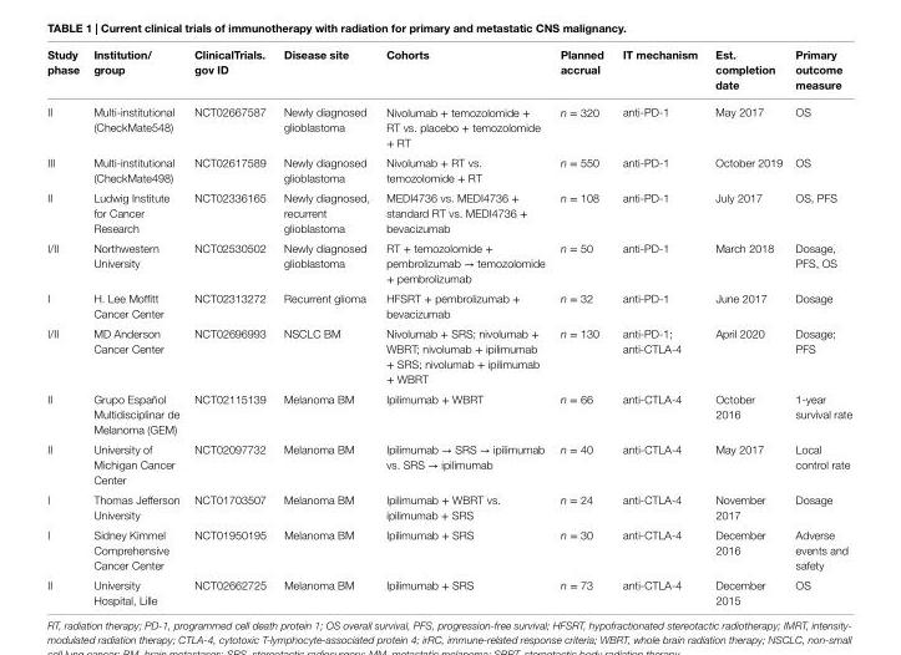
<table><thead><tr><td>Study phase</td><td>institution/ group</td><td>ClinicalTrials. gov iD</td><td>Disease site</td><td>Cohorts</td><td>Planned accrual</td><td>iT mechanism</td><td>est. completion date</td><td>Primary outcome measure</td></tr></thead><tbody><tr><td>II</td><td>Multi-institutional (CheckMate548)</td><td>NCT02667587</td><td>Newly diagnosed glioblastoma</td><td>Nivolumab + temozolomide + RT vs. placebo + temozolomide + RT</td><td>n = 320</td><td>anti-PD-1</td><td>May 2017</td><td>OS</td></tr><tr><td>III</td><td>Multi-institutional (CheckMate498)</td><td>NCT02617589</td><td>Newly diagnosed glioblastoma</td><td>Nivolumab + RT vs. temozolomide + RT</td><td>n = 550</td><td>anti-PD-1</td><td>October 2019</td><td>OS</td></tr><tr><td>II</td><td>Ludwig Institute for Cancer Research</td><td>NCT02336165</td><td>Newly diagnosed, recurrent glioblastoma</td><td>MEDI4736 vs. MEDI4736 + standard RT vs. MEDI4736 + bevacizumab</td><td>n = 108</td><td>anti-PD-1</td><td>July 2017</td><td>OS, PFS</td></tr><tr><td>I/II</td><td>Northwestern University</td><td>NCT02530502</td><td>Newly diagnosed glioblastoma</td><td>RT + temozolomide + pembrolizumab → temozolomide + pembrolizumab</td><td>n = 50</td><td>anti-PD-1</td><td>March 2018</td><td>Dosage, PFS, OS</td></tr><tr><td>I</td><td>H. Lee Moffitt Cancer Center</td><td>NCT02313272</td><td>Recurrent glioma</td><td>HFSRT + pembrolizumab + bevacizumab</td><td>n = 32</td><td>anti-PD-1</td><td>June 2017</td><td>Dosage</td></tr><tr><td>I/II</td><td>MD Anderson Cancer Center</td><td>NCT02696993</td><td>NSCLC BM</td><td>Nivolumab + SRS; nivolumab + WBRT; nivolumab + ipilimumab + SRS; nivolumab + ipilimumab + WBRT</td><td>n = 130</td><td>anti-PD-1; anti-CTLA-4</td><td>April 2020</td><td>Dosage; PFS</td></tr><tr><td>II</td><td>Grupo Español Multidisciplinar de Melanoma (GEM)</td><td>NCT02115139</td><td>Melanoma BM</td><td>Ipilimumab + WBRT</td><td>n = 66</td><td>anti-CTLA-4</td><td>October 2016</td><td>1-year survival rate</td></tr><tr><td>II</td><td>University of Michigan Cancer Center</td><td>NCT02097732</td><td>Melanoma BM</td><td>Ipilimumab → SRS → ipilimumab vs. SRS → ipilimumab</td><td>n = 40</td><td>anti-CTLA-4</td><td>May 2017</td><td>Local control rate</td></tr><tr><td>I</td><td>Thomas Jefferson University</td><td>NCT01703507</td><td>Melanoma BM</td><td>Ipilimumab + WBRT vs. ipilimumab + SRS</td><td>n = 24</td><td>anti-CTLA-4</td><td>November 2017</td><td>Dosage</td></tr><tr><td>I</td><td>Sidney Kimmel Comprehensive Cancer Center</td><td>NCT01950195</td><td>Melanoma BM</td><td>Ipilimumab + SRS</td><td>n = 30</td><td>anti-CTLA-4</td><td>December 2016</td><td>Adverse events and safety</td></tr><tr><td>II</td><td>University Hospital, Lille</td><td>NCT02662725</td><td>Melanoma BM</td><td>Ipilimumab + SRS</td><td>n = 73</td><td>anti-CTLA-4</td><td>December 2015</td><td>OS</td></tr></tbody></table>